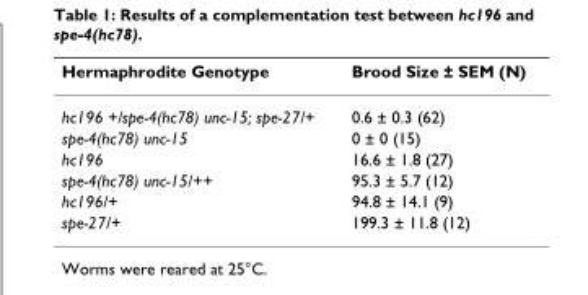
<table><thead><tr><td>Hermaphrodite Genotype</td><td>Brood Size ± SEM (N)</td></tr></thead><tbody><tr><td>hc196 +/spe-4(hc78) unc-15; spe-27/+</td><td>0.6 ± 0.3 (62)</td></tr><tr><td>spe-4(hc78) unc-15</td><td>0 ± 0 (15)</td></tr><tr><td>hc196</td><td>16.6 ± 1.8 (27)</td></tr><tr><td>spe-4(hc78) unc-15/++</td><td>95.3 ± 5.7 (12)</td></tr><tr><td>hc196/+</td><td>94.8 ± 14.1 (9)</td></tr><tr><td>spe-27/+</td><td>199.3 ± 11.8 (12)</td></tr></tbody></table>